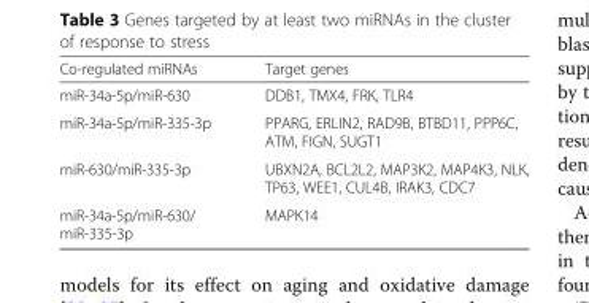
<table><thead><tr><td>Co-regulated miRNAs</td><td>Target genes</td></tr></thead><tbody><tr><td>miR-34a-5p/miR-630</td><td>DDB1, TMX4, FRK, TLR4</td></tr><tr><td>miR-34a-5p/miR-335-3p</td><td>PPARG, ERLIN2, RAD9B, BTBD11, PPP6C, ATM, FIGN, SUGT1</td></tr><tr><td>miR-630/miR-335-3p</td><td>UBXN2A, BCL2L2, MAP3K2, MAP4K3, NLK, TP63, WEE1, CUL4B, IRAK3, CDC7</td></tr><tr><td>miR-34a-5p/miR-630/ miR-335-3p</td><td>MAPK14</td></tr></tbody></table>